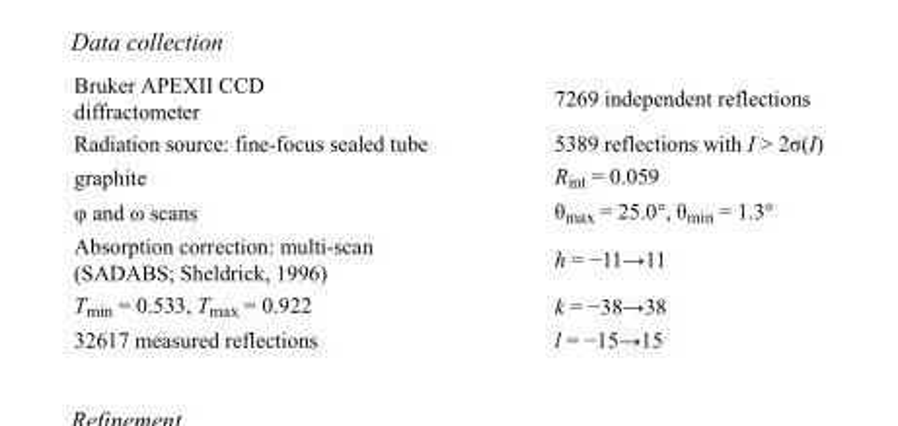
<table><tbody><tr><td>Bruker APEXII CCD diffractometer</td><td>7269 independent reflections</td></tr><tr><td>Radiation source: fine-focus sealed tube</td><td>5389 reflections with I &gt; 2σ(I)</td></tr><tr><td>graphite</td><td>R<sub>int</sub> = 0.059</td></tr><tr><td>φ and ω scans</td><td>θ<sub>max</sub> = 25.0°, θ<sub>min</sub> = 1.3°</td></tr><tr><td>Absorption correction: multi-scan (SADABS; Sheldrick, 1996)</td><td>h = −11→11</td></tr><tr><td>T<sub>min</sub> = 0.533, T<sub>max</sub> = 0.922</td><td>k = −38→38</td></tr><tr><td>32617 measured reflections</td><td>l = −15→15</td></tr></tbody></table>